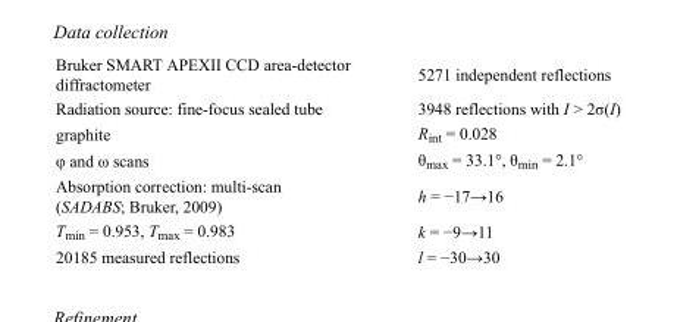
<table><tbody><tr><td>Bruker SMART APEXII CCD area-detector diffractometer</td><td>5271 independent reflections</td></tr><tr><td>Radiation source: fine-focus sealed tube</td><td>3948 reflections with I &gt; 2σ(I)</td></tr><tr><td>graphite</td><td>R<sub>int</sub> = 0.028</td></tr><tr><td>φ and ω scans</td><td>θ<sub>max</sub> = 33.1°, θ<sub>min</sub> = 2.1°</td></tr><tr><td>Absorption correction: multi-scan (SADABS; Bruker, 2009)</td><td>h = −17→16</td></tr><tr><td>T<sub>min</sub> = 0.953, T<sub>max</sub> = 0.983</td><td>k = −9→11</td></tr><tr><td>20185 measured reflections</td><td>l = −30→30</td></tr></tbody></table>